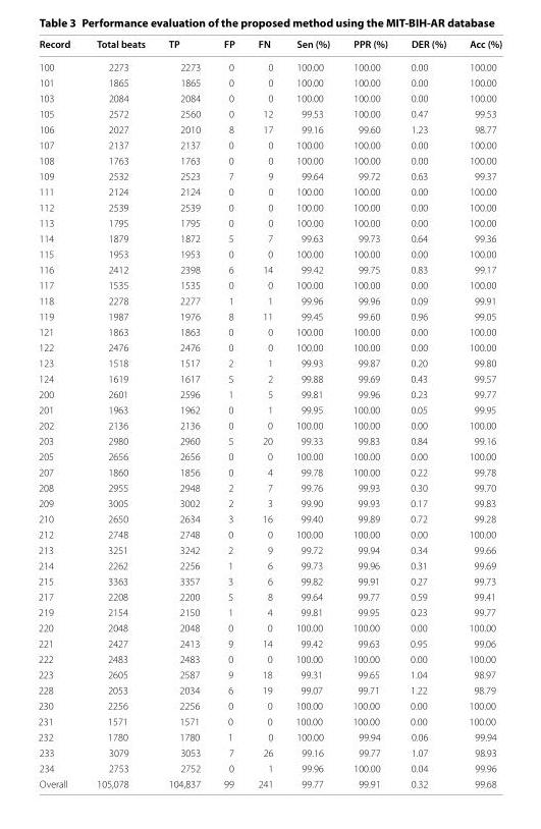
<table><thead><tr><td>Record</td><td>Total beats</td><td>TP</td><td>FP</td><td>FN</td><td>Sen (%)</td><td>PPR (%)</td><td>DER (%)</td><td>Acc (%)</td></tr></thead><tbody><tr><td>100</td><td>2273</td><td>2273</td><td>0</td><td>0</td><td>100.00</td><td>100.00</td><td>0.00</td><td>100.00</td></tr><tr><td>101</td><td>1865</td><td>1865</td><td>0</td><td>0</td><td>100.00</td><td>100.00</td><td>0.00</td><td>100.00</td></tr><tr><td>103</td><td>2084</td><td>2084</td><td>0</td><td>0</td><td>100.00</td><td>100.00</td><td>0.00</td><td>100.00</td></tr><tr><td>105</td><td>2572</td><td>2560</td><td>0</td><td>12</td><td>99.53</td><td>100.00</td><td>0.47</td><td>99.53</td></tr><tr><td>106</td><td>2027</td><td>2010</td><td>8</td><td>17</td><td>99.16</td><td>99.60</td><td>1.23</td><td>98.77</td></tr><tr><td>107</td><td>2137</td><td>2137</td><td>0</td><td>0</td><td>100.00</td><td>100.00</td><td>0.00</td><td>100.00</td></tr><tr><td>108</td><td>1763</td><td>1763</td><td>0</td><td>0</td><td>100.00</td><td>100.00</td><td>0.00</td><td>100.00</td></tr><tr><td>109</td><td>2532</td><td>2523</td><td>7</td><td>9</td><td>99.64</td><td>99.72</td><td>0.63</td><td>99.37</td></tr><tr><td>111</td><td>2124</td><td>2124</td><td>0</td><td>0</td><td>100.00</td><td>100.00</td><td>0.00</td><td>100.00</td></tr><tr><td>112</td><td>2539</td><td>2539</td><td>0</td><td>0</td><td>100.00</td><td>100.00</td><td>0.00</td><td>100.00</td></tr><tr><td>113</td><td>1795</td><td>1795</td><td>0</td><td>0</td><td>100.00</td><td>100.00</td><td>0.00</td><td>100.00</td></tr><tr><td>114</td><td>1879</td><td>1872</td><td>5</td><td>7</td><td>99.63</td><td>99.73</td><td>0.64</td><td>99.36</td></tr><tr><td>115</td><td>1953</td><td>1953</td><td>0</td><td>0</td><td>100.00</td><td>100.00</td><td>0.00</td><td>100.00</td></tr><tr><td>116</td><td>2412</td><td>2398</td><td>6</td><td>14</td><td>99.42</td><td>99.75</td><td>0.83</td><td>99.17</td></tr><tr><td>117</td><td>1535</td><td>1535</td><td>0</td><td>0</td><td>100.00</td><td>100.00</td><td>0.00</td><td>100.00</td></tr><tr><td>118</td><td>2278</td><td>2277</td><td>1</td><td>1</td><td>99.96</td><td>99.96</td><td>0.09</td><td>99.91</td></tr><tr><td>119</td><td>1987</td><td>1976</td><td>8</td><td>11</td><td>99.45</td><td>99.60</td><td>0.96</td><td>99.05</td></tr><tr><td>121</td><td>1863</td><td>1863</td><td>0</td><td>0</td><td>100.00</td><td>100.00</td><td>0.00</td><td>100.00</td></tr><tr><td>122</td><td>2476</td><td>2476</td><td>0</td><td>0</td><td>100.00</td><td>100.00</td><td>0.00</td><td>100.00</td></tr><tr><td>123</td><td>1518</td><td>1517</td><td>2</td><td>1</td><td>99.93</td><td>99.87</td><td>0.20</td><td>99.80</td></tr><tr><td>124</td><td>1619</td><td>1617</td><td>5</td><td>2</td><td>99.88</td><td>99.69</td><td>0.43</td><td>99.57</td></tr><tr><td>200</td><td>2601</td><td>2596</td><td>1</td><td>5</td><td>99.81</td><td>99.96</td><td>0.23</td><td>99.77</td></tr><tr><td>201</td><td>1963</td><td>1962</td><td>0</td><td>1</td><td>99.95</td><td>100.00</td><td>0.05</td><td>99.95</td></tr><tr><td>202</td><td>2136</td><td>2136</td><td>0</td><td>0</td><td>100.00</td><td>100.00</td><td>0.00</td><td>100.00</td></tr><tr><td>203</td><td>2980</td><td>2960</td><td>5</td><td>20</td><td>99.33</td><td>99.83</td><td>0.84</td><td>99.16</td></tr><tr><td>205</td><td>2656</td><td>2656</td><td>0</td><td>0</td><td>100.00</td><td>100.00</td><td>0.00</td><td>100.00</td></tr><tr><td>207</td><td>1860</td><td>1856</td><td>0</td><td>4</td><td>99.78</td><td>100.00</td><td>0.22</td><td>99.78</td></tr><tr><td>208</td><td>2955</td><td>2948</td><td>2</td><td>7</td><td>99.76</td><td>99.93</td><td>0.30</td><td>99.70</td></tr><tr><td>209</td><td>3005</td><td>3002</td><td>2</td><td>3</td><td>99.90</td><td>99.93</td><td>0.17</td><td>99.83</td></tr><tr><td>210</td><td>2650</td><td>2634</td><td>3</td><td>16</td><td>99.40</td><td>99.89</td><td>0.72</td><td>99.28</td></tr><tr><td>212</td><td>2748</td><td>2748</td><td>0</td><td>0</td><td>100.00</td><td>100.00</td><td>0.00</td><td>100.00</td></tr><tr><td>213</td><td>3251</td><td>3242</td><td>2</td><td>9</td><td>99.72</td><td>99.94</td><td>0.34</td><td>99.66</td></tr><tr><td>214</td><td>2262</td><td>2256</td><td>1</td><td>6</td><td>99.73</td><td>99.96</td><td>0.31</td><td>99.69</td></tr><tr><td>215</td><td>3363</td><td>3357</td><td>3</td><td>6</td><td>99.82</td><td>99.91</td><td>0.27</td><td>99.73</td></tr><tr><td>217</td><td>2208</td><td>2200</td><td>5</td><td>8</td><td>99.64</td><td>99.77</td><td>0.59</td><td>99.41</td></tr><tr><td>219</td><td>2154</td><td>2150</td><td>1</td><td>4</td><td>99.81</td><td>99.95</td><td>0.23</td><td>99.77</td></tr><tr><td>220</td><td>2048</td><td>2048</td><td>0</td><td>0</td><td>100.00</td><td>100.00</td><td>0.00</td><td>100.00</td></tr><tr><td>221</td><td>2427</td><td>2413</td><td>9</td><td>14</td><td>99.42</td><td>99.63</td><td>0.95</td><td>99.06</td></tr><tr><td>222</td><td>2483</td><td>2483</td><td>0</td><td>0</td><td>100.00</td><td>100.00</td><td>0.00</td><td>100.00</td></tr><tr><td>223</td><td>2605</td><td>2587</td><td>9</td><td>18</td><td>99.31</td><td>99.65</td><td>1.04</td><td>98.97</td></tr><tr><td>228</td><td>2053</td><td>2034</td><td>6</td><td>19</td><td>99.07</td><td>99.71</td><td>1.22</td><td>98.79</td></tr><tr><td>230</td><td>2256</td><td>2256</td><td>0</td><td>0</td><td>100.00</td><td>100.00</td><td>0.00</td><td>100.00</td></tr><tr><td>231</td><td>1571</td><td>1571</td><td>0</td><td>0</td><td>100.00</td><td>100.00</td><td>0.00</td><td>100.00</td></tr><tr><td>232</td><td>1780</td><td>1780</td><td>1</td><td>0</td><td>100.00</td><td>99.94</td><td>0.06</td><td>99.94</td></tr><tr><td>233</td><td>3079</td><td>3053</td><td>7</td><td>26</td><td>99.16</td><td>99.77</td><td>1.07</td><td>98.93</td></tr><tr><td>234</td><td>2753</td><td>2752</td><td>0</td><td>1</td><td>99.96</td><td>100.00</td><td>0.04</td><td>99.96</td></tr><tr><td>Overall</td><td>105,078</td><td>104,837</td><td>99</td><td>241</td><td>99.77</td><td>99.91</td><td>0.32</td><td>99.68</td></tr></tbody></table>